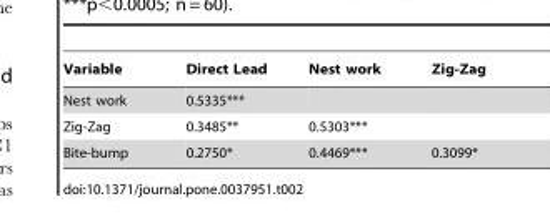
<table><thead><tr><td>Variable</td><td>Direct Lead</td><td>Nest work</td><td>Zig-Zag</td></tr></thead><tbody><tr><td>Nest work</td><td>0.5335***</td><td></td><td></td></tr><tr><td>Zig-Zag</td><td>0.3485**</td><td>0.5303***</td><td></td></tr><tr><td>Bite-bump</td><td>0.2750*</td><td>0.4469***</td><td>0.3099*</td></tr></tbody></table>